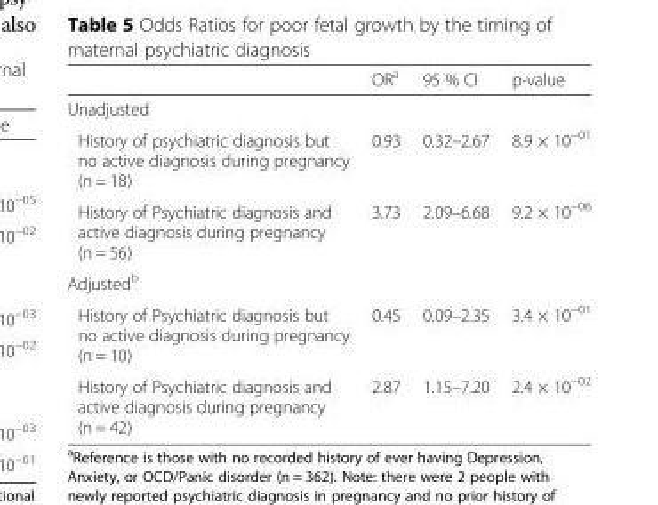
<table><thead><tr><td></td><td>OR<sup>a</sup></td><td>95 % CI</td><td>p-value</td></tr></thead><tbody><tr><td colspan="4">Unadjusted</td></tr><tr><td>History of psychiatric diagnosis but no active diagnosis during pregnancy (n = 18)</td><td>0.93</td><td>0.32–2.67</td><td>8.9 × 10<sup>−01</sup></td></tr><tr><td>History of Psychiatric diagnosis and active diagnosis during pregnancy (n = 56)</td><td>3.73</td><td>2.09–6.68</td><td>9.2 × 10<sup>−06</sup></td></tr><tr><td colspan="4">Adjusted<sup>b</sup></td></tr><tr><td>History of Psychiatric diagnosis but no active diagnosis during pregnancy (n = 10)</td><td>0.45</td><td>0.09–2.35</td><td>3.4 × 10<sup>−01</sup></td></tr><tr><td>History of Psychiatric diagnosis and active diagnosis during pregnancy (n = 42)</td><td>2.87</td><td>1.15–7.20</td><td>2.4 × 10<sup>−02</sup></td></tr></tbody></table>